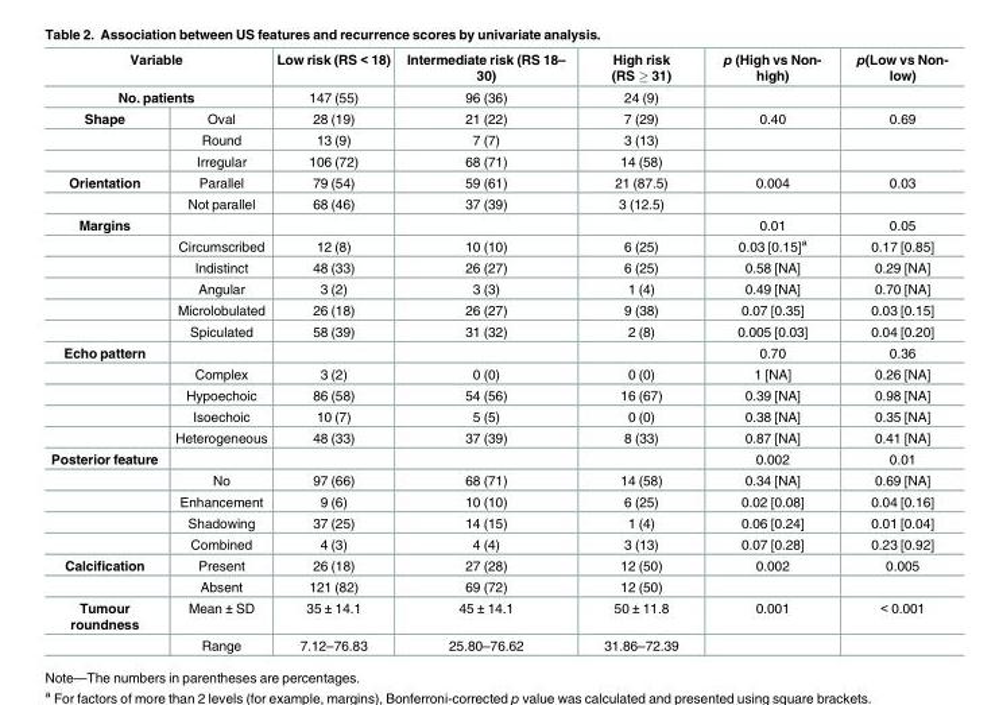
<table><thead><tr><td rowspan="2" colspan="2">Variable No. patients</td><td rowspan="3">Low risk (RS &lt; 18) 147 (55) 28 (19)</td><td rowspan="3">Intermediate risk (RS 18– 30) 96 (36) 21 (22)</td><td rowspan="3">High risk (RS ≥ 31) 24 (9) 7 (29)</td><td rowspan="3">p (High vs Non- high) 0.40</td><td rowspan="3">p(Low vs Non- low) 0.69</td></tr><tr></tr><tr><td>Shape</td><td>Oval</td></tr></thead><tbody><tr><td></td><td>Round</td><td>13 (9)</td><td>7 (7)</td><td>3 (13)</td><td></td><td></td></tr><tr><td></td><td>Irregular</td><td>106 (72)</td><td>68 (71)</td><td>14 (58)</td><td></td><td></td></tr><tr><td rowspan="2">Orientation</td><td>Parallel</td><td>79 (54)</td><td>59 (61)</td><td>21 (87.5)</td><td>0.004</td><td>0.03</td></tr><tr><td>Not parallel</td><td>68 (46)</td><td>37 (39)</td><td>3 (12.5)</td><td></td><td></td></tr><tr><td rowspan="6">Margins</td><td></td><td></td><td></td><td></td><td>0.01</td><td>0.05</td></tr><tr><td>Circumscribed</td><td>12 (8)</td><td>10 (10)</td><td>6 (25)</td><td>0.03 [0.15]<sup>a</sup></td><td>0.17 [0.85]</td></tr><tr><td>Indistinct</td><td>48 (33)</td><td>26 (27)</td><td>6 (25)</td><td>0.58 [NA]</td><td>0.29 [NA]</td></tr><tr><td>Angular</td><td>3 (2)</td><td>3 (3)</td><td>1 (4)</td><td>0.49 [NA]</td><td>0.70 [NA]</td></tr><tr><td>Microlobulated</td><td>26 (18)</td><td>26 (27)</td><td>9 (38)</td><td>0.07 [0.35]</td><td>0.03 [0.15]</td></tr><tr><td>Spiculated</td><td>58 (39)</td><td>31 (32)</td><td>2 (8)</td><td>0.005 [0.03]</td><td>0.04 [0.20]</td></tr><tr><td rowspan="5">Echo pattern</td><td></td><td></td><td></td><td></td><td>0.70</td><td>0.36</td></tr><tr><td>Complex</td><td>3 (2)</td><td>0 (0)</td><td>0 (0)</td><td>1 [NA]</td><td>0.26 [NA]</td></tr><tr><td>Hypoechoic</td><td>86 (58)</td><td>54 (56)</td><td>16 (67)</td><td>0.39 [NA]</td><td>0.98 [NA]</td></tr><tr><td>Isoechoic</td><td>10 (7)</td><td>5 (5)</td><td>0 (0)</td><td>0.38 [NA]</td><td>0.35 [NA]</td></tr><tr><td>Heterogeneous</td><td>48 (33)</td><td>37 (39)</td><td>8 (33)</td><td>0.87 [NA]</td><td>0.41 [NA]</td></tr><tr><td rowspan="5">Posterior feature</td><td></td><td></td><td></td><td></td><td>0.002</td><td>0.01</td></tr><tr><td>No</td><td>97 (66)</td><td>68 (71)</td><td>14 (58)</td><td>0.34 [NA]</td><td>0.69 [NA]</td></tr><tr><td>Enhancement</td><td>9 (6)</td><td>10 (10)</td><td>6 (25)</td><td>0.02 [0.08]</td><td>0.04 [0.16]</td></tr><tr><td>Shadowing</td><td>37 (25)</td><td>14 (15)</td><td>1 (4)</td><td>0.06 [0.24]</td><td>0.01 [0.04]</td></tr><tr><td>Combined</td><td>4 (3)</td><td>4 (4)</td><td>3 (13)</td><td>0.07 [0.28]</td><td>0.23 [0.92]</td></tr><tr><td rowspan="2">Calcification</td><td>Present</td><td>26 (18)</td><td>27 (28)</td><td>12 (50)</td><td>0.002</td><td>0.005</td></tr><tr><td>Absent</td><td>121 (82)</td><td>69 (72)</td><td>12 (50)</td><td></td><td></td></tr><tr><td rowspan="2">Tumour roundness</td><td>Mean ± SD</td><td>35 ± 14.1</td><td>45 ± 14.1</td><td>50 ± 11.8</td><td>0.001</td><td>&lt; 0.001</td></tr><tr><td>Range</td><td>7.12–76.83</td><td>25.80–76.62</td><td>31.86–72.39</td><td></td><td></td></tr></tbody></table>